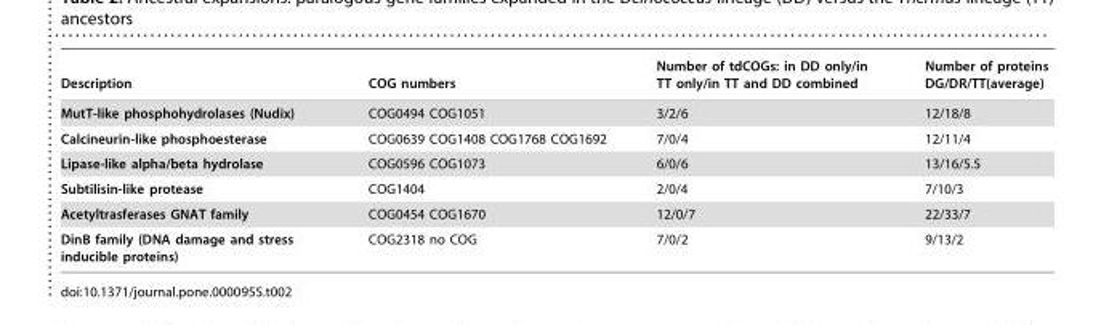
<table><thead><tr><td>Description</td><td>COG numbers</td><td>Number of tdCOGs: in DD only/in TT only/in TT and DD combined</td><td>Number of proteins DG/DR/TT(average)</td></tr></thead><tbody><tr><td>MutT-like phosphohydrolases (Nudix)</td><td>COG0494 COG1051</td><td>3/2/6</td><td>12/18/8</td></tr><tr><td>Calcineurin-like phosphoesterase</td><td>COG0639 COG1408 COG1768 COG1692</td><td>7/0/4</td><td>12/11/4</td></tr><tr><td>Lipase-like alpha/beta hydrolase</td><td>COG0596 COG1073</td><td>6/0/6</td><td>13/16/5.5</td></tr><tr><td>Subtilisin-like protease</td><td>COG1404</td><td>2/0/4</td><td>7/10/3</td></tr><tr><td>Acetyltrasferases GNAT family</td><td>COG0454 COG1670</td><td>12/0/7</td><td>22/33/7</td></tr><tr><td>DinB family (DNA damage and stress inducible proteins)</td><td>COG2318 no COG</td><td>7/0/2</td><td>9/13/2</td></tr></tbody></table>